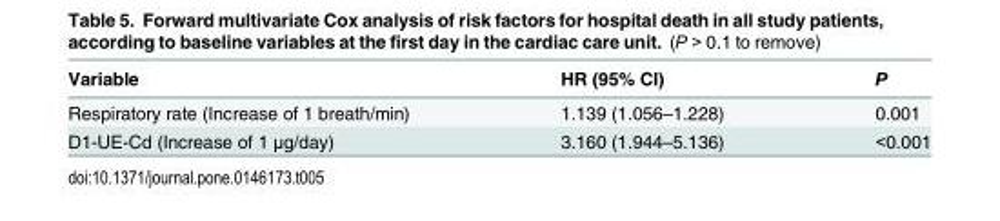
<table><thead><tr><td>Variable</td><td>HR (95% CI)</td><td>P</td></tr></thead><tbody><tr><td>Respiratory rate (Increase of 1 breath/min)</td><td>1.139 (1.056–1.228)</td><td>0.001</td></tr><tr><td>D1-UE-Cd (Increase of 1 μg/day)</td><td>3.160 (1.944–5.136)</td><td>&lt;0.001</td></tr></tbody></table>